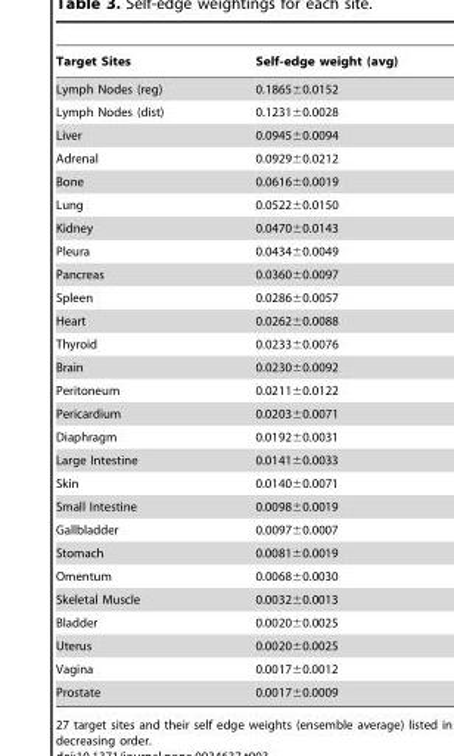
<table><thead><tr><td>Target Sites</td><td>Self-edge weight (avg)</td></tr></thead><tbody><tr><td>Lymph Nodes (reg)</td><td>0.1865±0.0152</td></tr><tr><td>Lymph Nodes (dist)</td><td>0.1231±0.0028</td></tr><tr><td>Liver</td><td>0.0945±0.0094</td></tr><tr><td>Adrenal</td><td>0.0929±0.0212</td></tr><tr><td>Bone</td><td>0.0616±0.0019</td></tr><tr><td>Lung</td><td>0.0522±0.0150</td></tr><tr><td>Kidney</td><td>0.0470±0.0143</td></tr><tr><td>Pleura</td><td>0.0434±0.0049</td></tr><tr><td>Pancreas</td><td>0.0360±0.0097</td></tr><tr><td>Spleen</td><td>0.0286±0.0057</td></tr><tr><td>Heart</td><td>0.0262±0.0088</td></tr><tr><td>Thyroid</td><td>0.0233±0.0076</td></tr><tr><td>Brain</td><td>0.0230±0.0092</td></tr><tr><td>Peritoneum</td><td>0.0211±0.0122</td></tr><tr><td>Pericardium</td><td>0.0203±0.0071</td></tr><tr><td>Diaphragm</td><td>0.0192±0.0031</td></tr><tr><td>Large Intestine</td><td>0.0141±0.0033</td></tr><tr><td>Skin</td><td>0.0140±0.0071</td></tr><tr><td>Small Intestine</td><td>0.0098±0.0019</td></tr><tr><td>Gallbladder</td><td>0.0097±0.0007</td></tr><tr><td>Stomach</td><td>0.0081±0.0019</td></tr><tr><td>Omentum</td><td>0.0068±0.0030</td></tr><tr><td>Skeletal Muscle</td><td>0.0032±0.0013</td></tr><tr><td>Bladder</td><td>0.0020±0.0025</td></tr><tr><td>Uterus</td><td>0.0020±0.0025</td></tr><tr><td>Vagina</td><td>0.0017±0.0012</td></tr><tr><td>Prostate</td><td>0.0017±0.0009</td></tr></tbody></table>